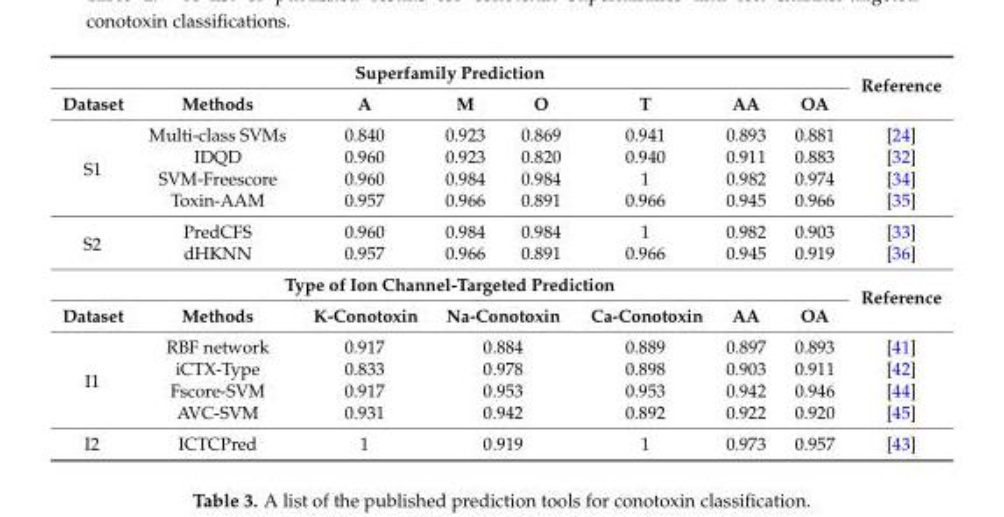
<table><tbody><tr><td colspan="8">Superfamily Prediction</td><td rowspan="2">Reference</td></tr><tr><td>Dataset</td><td>Methods</td><td>A</td><td>M</td><td>O</td><td>T</td><td>AA</td><td>OA</td></tr><tr><td rowspan="4">S1</td><td>Multi-class SVMs</td><td>0.840</td><td>0.923</td><td>0.869</td><td>0.941</td><td>0.893</td><td>0.881</td><td>[24]</td></tr><tr><td>IDQD</td><td>0.960</td><td>0.923</td><td>0.820</td><td>0.940</td><td>0.911</td><td>0.883</td><td>[32]</td></tr><tr><td>SVM-Freescore</td><td>0.960</td><td>0.984</td><td>0.984</td><td>1</td><td>0.982</td><td>0.974</td><td>[34]</td></tr><tr><td>Toxin-AAM</td><td>0.957</td><td>0.966</td><td>0.891</td><td>0.966</td><td>0.945</td><td>0.966</td><td>[35]</td></tr><tr><td rowspan="2">S2</td><td>PredCFS</td><td>0.960</td><td>0.984</td><td>0.984</td><td>1</td><td>0.982</td><td>0.903</td><td>[33]</td></tr><tr><td>dHKNN</td><td>0.957</td><td>0.966</td><td>0.891</td><td>0.966</td><td>0.945</td><td>0.919</td><td>[36]</td></tr><tr><td colspan="8">Type of Ion Channel-Targeted Prediction</td><td rowspan="2">Reference</td></tr><tr><td>Dataset</td><td>Methods</td><td>K-Conotoxin</td><td colspan="2">Na-Conotoxin</td><td>Ca-Conotoxin</td><td>AA</td><td>OA</td></tr><tr><td rowspan="4">I1</td><td>RBF network</td><td>0.917</td><td colspan="2">0.884</td><td>0.889</td><td>0.897</td><td>0.893</td><td>[41]</td></tr><tr><td>iCTX-Type</td><td>0.833</td><td colspan="2">0.978</td><td>0.898</td><td>0.903</td><td>0.911</td><td>[42]</td></tr><tr><td>Fscore-SVM</td><td>0.917</td><td colspan="2">0.953</td><td>0.953</td><td>0.942</td><td>0.946</td><td>[44]</td></tr><tr><td>AVC-SVM</td><td>0.931</td><td colspan="2">0.942</td><td>0.892</td><td>0.922</td><td>0.920</td><td>[45]</td></tr><tr><td>I2</td><td>ICTCPred</td><td>1</td><td colspan="2">0.919</td><td>1</td><td>0.973</td><td>0.957</td><td>[43]</td></tr></tbody></table>